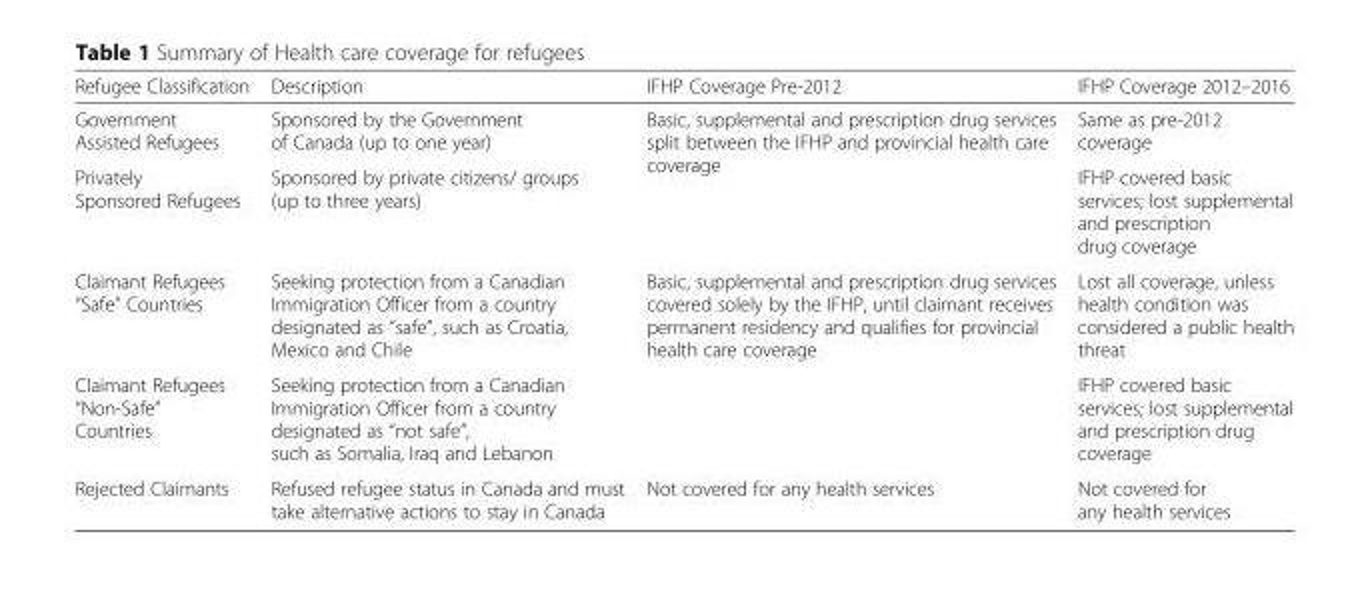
<table><thead><tr><td>Refugee Classification</td><td>Description</td><td>IFHP Coverage Pre-2012</td><td>IFHP Coverage 2012–2016</td></tr></thead><tbody><tr><td>Government Assisted Refugees</td><td>Sponsored by the Government of Canada (up to one year)</td><td rowspan="2">Basic, supplemental and prescription drug services split between the IFHP and provincial health care coverage</td><td>Same as pre-2012 coverage</td></tr><tr><td>Privately Sponsored Refugees</td><td>Sponsored by private citizens/ groups (up to three years)</td><td>IFHP covered basic services; lost supplemental and prescription drug coverage</td></tr><tr><td>Claimant Refugees “Safe” Countries</td><td>Seeking protection from a Canadian Immigration Officer from a country designated as “safe”, such as Croatia, Mexico and Chile</td><td rowspan="2">Basic, supplemental and prescription drug services covered solely by the IFHP, until claimant receives permanent residency and qualifies for provincial health care coverage</td><td>Lost all coverage, unless health condition was considered a public health threat</td></tr><tr><td>Claimant Refugees “Non-Safe” Countries</td><td>Seeking protection from a Canadian Immigration Officer from a country designated as “not safe”, such as Somalia, Iraq and Lebanon</td><td>IFHP covered basic services; lost supplemental and prescription drug coverage</td></tr><tr><td>Rejected Claimants</td><td>Refused refugee status in Canada and must take alternative actions to stay in Canada</td><td>Not covered for any health services</td><td>Not covered for any health services</td></tr></tbody></table>